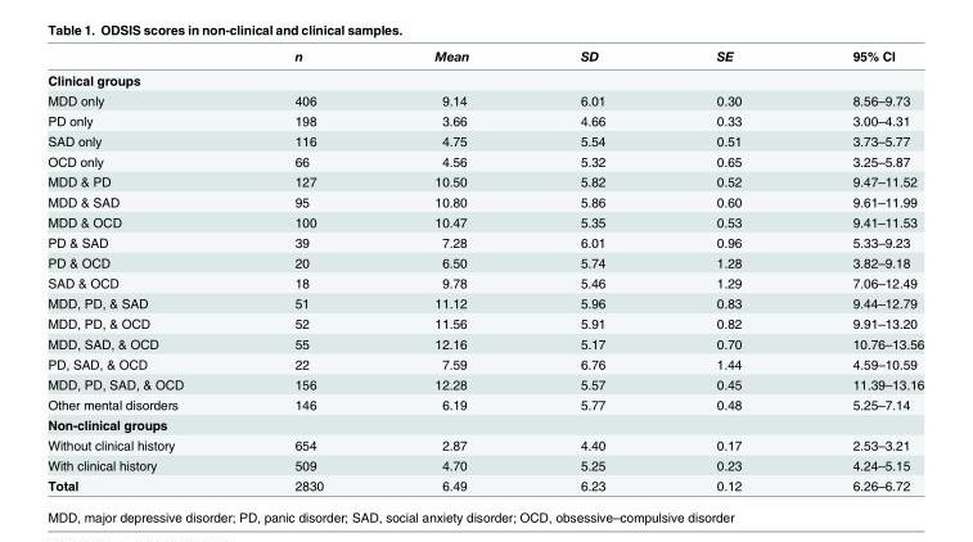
<table><thead><tr><td></td><td>n</td><td>Mean</td><td>SD</td><td>SE</td><td>95% CI</td></tr></thead><tbody><tr><td colspan="6">Clinical groups</td></tr><tr><td>MDD only</td><td>406</td><td>9.14</td><td>6.01</td><td>0.30</td><td>8.56–9.73</td></tr><tr><td>PD only</td><td>198</td><td>3.66</td><td>4.66</td><td>0.33</td><td>3.00–4.31</td></tr><tr><td>SAD only</td><td>116</td><td>4.75</td><td>5.54</td><td>0.51</td><td>3.73–5.77</td></tr><tr><td>OCD only</td><td>66</td><td>4.56</td><td>5.32</td><td>0.65</td><td>3.25–5.87</td></tr><tr><td>MDD &amp; PD</td><td>127</td><td>10.50</td><td>5.82</td><td>0.52</td><td>9.47–11.52</td></tr><tr><td>MDD &amp; SAD</td><td>95</td><td>10.80</td><td>5.86</td><td>0.60</td><td>9.61–11.99</td></tr><tr><td>MDD &amp; OCD</td><td>100</td><td>10.47</td><td>5.35</td><td>0.53</td><td>9.41–11.53</td></tr><tr><td>PD &amp; SAD</td><td>39</td><td>7.28</td><td>6.01</td><td>0.96</td><td>5.33–9.23</td></tr><tr><td>PD &amp; OCD</td><td>20</td><td>6.50</td><td>5.74</td><td>1.28</td><td>3.82–9.18</td></tr><tr><td>SAD &amp; OCD</td><td>18</td><td>9.78</td><td>5.46</td><td>1.29</td><td>7.06–12.49</td></tr><tr><td>MDD, PD, &amp; SAD</td><td>51</td><td>11.12</td><td>5.96</td><td>0.83</td><td>9.44–12.79</td></tr><tr><td>MDD, PD, &amp; OCD</td><td>52</td><td>11.56</td><td>5.91</td><td>0.82</td><td>9.91–13.20</td></tr><tr><td>MDD, SAD, &amp; OCD</td><td>55</td><td>12.16</td><td>5.17</td><td>0.70</td><td>10.76–13.56</td></tr><tr><td>PD, SAD, &amp; OCD</td><td>22</td><td>7.59</td><td>6.76</td><td>1.44</td><td>4.59–10.59</td></tr><tr><td>MDD, PD, SAD, &amp; OCD</td><td>156</td><td>12.28</td><td>5.57</td><td>0.45</td><td>11.39–13.16</td></tr><tr><td>Other mental disorders</td><td>146</td><td>6.19</td><td>5.77</td><td>0.48</td><td>5.25–7.14</td></tr><tr><td colspan="6">Non-clinical groups</td></tr><tr><td>Without clinical history</td><td>654</td><td>2.87</td><td>4.40</td><td>0.17</td><td>2.53–3.21</td></tr><tr><td>With clinical history</td><td>509</td><td>4.70</td><td>5.25</td><td>0.23</td><td>4.24–5.15</td></tr><tr><td>Total</td><td>2830</td><td>6.49</td><td>6.23</td><td>0.12</td><td>6.26–6.72</td></tr></tbody></table>